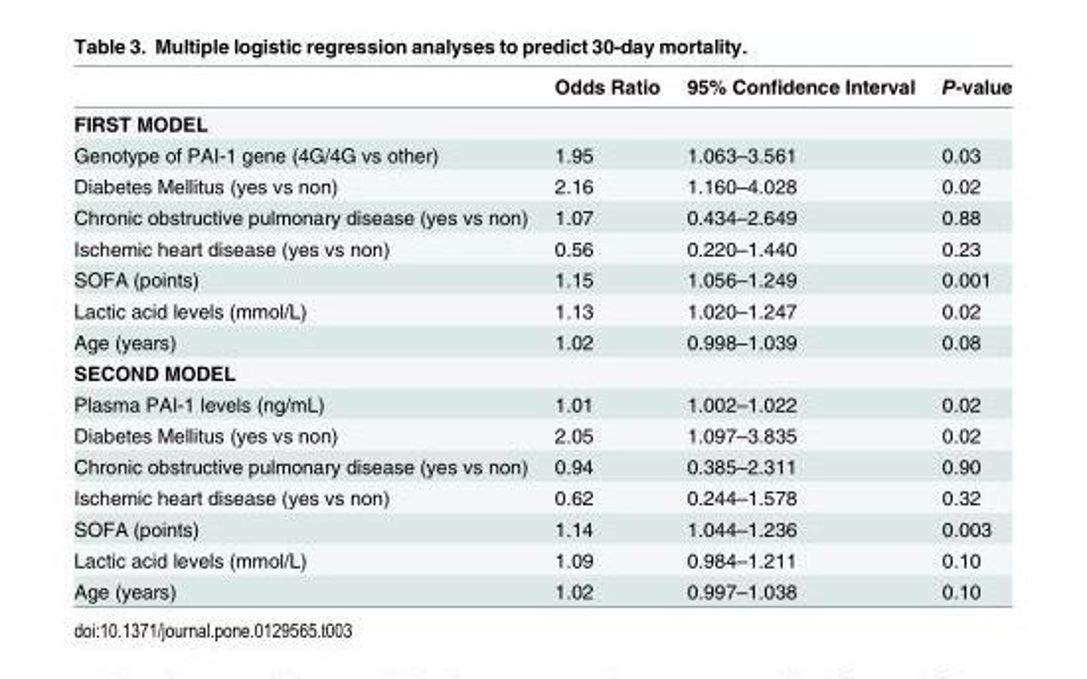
<table><thead><tr><td></td><td>Odds Ratio</td><td>95% Confidence Interval</td><td>P-value</td></tr></thead><tbody><tr><td colspan="4">FIRST MODEL</td></tr><tr><td>Genotype of PAI-1 gene (4G/4G vs other)</td><td>1.95</td><td>1.063–3.561</td><td>0.03</td></tr><tr><td>Diabetes Mellitus (yes vs non)</td><td>2.16</td><td>1.160–4.028</td><td>0.02</td></tr><tr><td>Chronic obstructive pulmonary disease (yes vs non)</td><td>1.07</td><td>0.434–2.649</td><td>0.88</td></tr><tr><td>Ischemic heart disease (yes vs non)</td><td>0.56</td><td>0.220–1.440</td><td>0.23</td></tr><tr><td>SOFA (points)</td><td>1.15</td><td>1.056–1.249</td><td>0.001</td></tr><tr><td>Lactic acid levels (mmol/L)</td><td>1.13</td><td>1.020–1.247</td><td>0.02</td></tr><tr><td>Age (years)</td><td>1.02</td><td>0.998–1.039</td><td>0.08</td></tr><tr><td colspan="4">SECOND MODEL</td></tr><tr><td>Plasma PAI-1 levels (ng/mL)</td><td>1.01</td><td>1.002–1.022</td><td>0.02</td></tr><tr><td>Diabetes Mellitus (yes vs non)</td><td>2.05</td><td>1.097–3.835</td><td>0.02</td></tr><tr><td>Chronic obstructive pulmonary disease (yes vs non)</td><td>0.94</td><td>0.385–2.311</td><td>0.90</td></tr><tr><td>Ischemic heart disease (yes vs non)</td><td>0.62</td><td>0.244–1.578</td><td>0.32</td></tr><tr><td>SOFA (points)</td><td>1.14</td><td>1.044–1.236</td><td>0.003</td></tr><tr><td>Lactic acid levels (mmol/L)</td><td>1.09</td><td>0.984–1.211</td><td>0.10</td></tr><tr><td>Age (years)</td><td>1.02</td><td>0.997–1.038</td><td>0.10</td></tr></tbody></table>